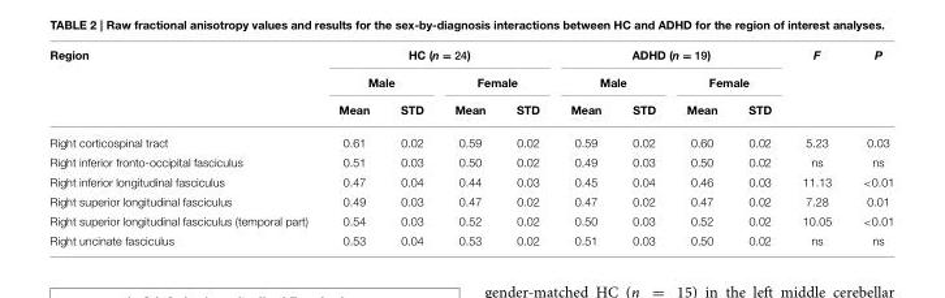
<table><thead><tr><td rowspan="3">Region</td><td colspan="4">HC (n = 24)</td><td colspan="4">ADHD (n = 19)</td><td rowspan="3">F</td><td rowspan="3">P</td></tr><tr><td colspan="2">Male</td><td colspan="2">Female</td><td colspan="2">Male</td><td colspan="2">Female</td></tr><tr><td>Mean</td><td>STD</td><td>Mean</td><td>STD</td><td>Mean</td><td>STD</td><td>Mean</td><td>STD</td></tr></thead><tbody><tr><td>Right corticospinal tract</td><td>0.61</td><td>0.02</td><td>0.59</td><td>0.02</td><td>0.59</td><td>0.02</td><td>0.60</td><td>0.02</td><td>5.23</td><td>0.03</td></tr><tr><td>Right inferior fronto-occipital fasciculus</td><td>0.51</td><td>0.03</td><td>0.50</td><td>0.02</td><td>0.49</td><td>0.03</td><td>0.50</td><td>0.02</td><td>ns</td><td>ns</td></tr><tr><td>Right inferior longitudinal fasciculus</td><td>0.47</td><td>0.04</td><td>0.44</td><td>0.03</td><td>0.45</td><td>0.04</td><td>0.46</td><td>0.03</td><td>11.13</td><td>&lt;0.01</td></tr><tr><td>Right superior longitudinal fasciculus</td><td>0.49</td><td>0.03</td><td>0.47</td><td>0.02</td><td>0.47</td><td>0.02</td><td>0.47</td><td>0.02</td><td>7.28</td><td>0.01</td></tr><tr><td>Right superior longitudinal fasciculus (temporal part)</td><td>0.54</td><td>0.03</td><td>0.52</td><td>0.02</td><td>0.50</td><td>0.03</td><td>0.52</td><td>0.02</td><td>10.05</td><td>&lt;0.01</td></tr><tr><td>Right uncinate fasciculus</td><td>0.53</td><td>0.04</td><td>0.53</td><td>0.02</td><td>0.51</td><td>0.03</td><td>0.50</td><td>0.02</td><td>ns</td><td>ns</td></tr></tbody></table>